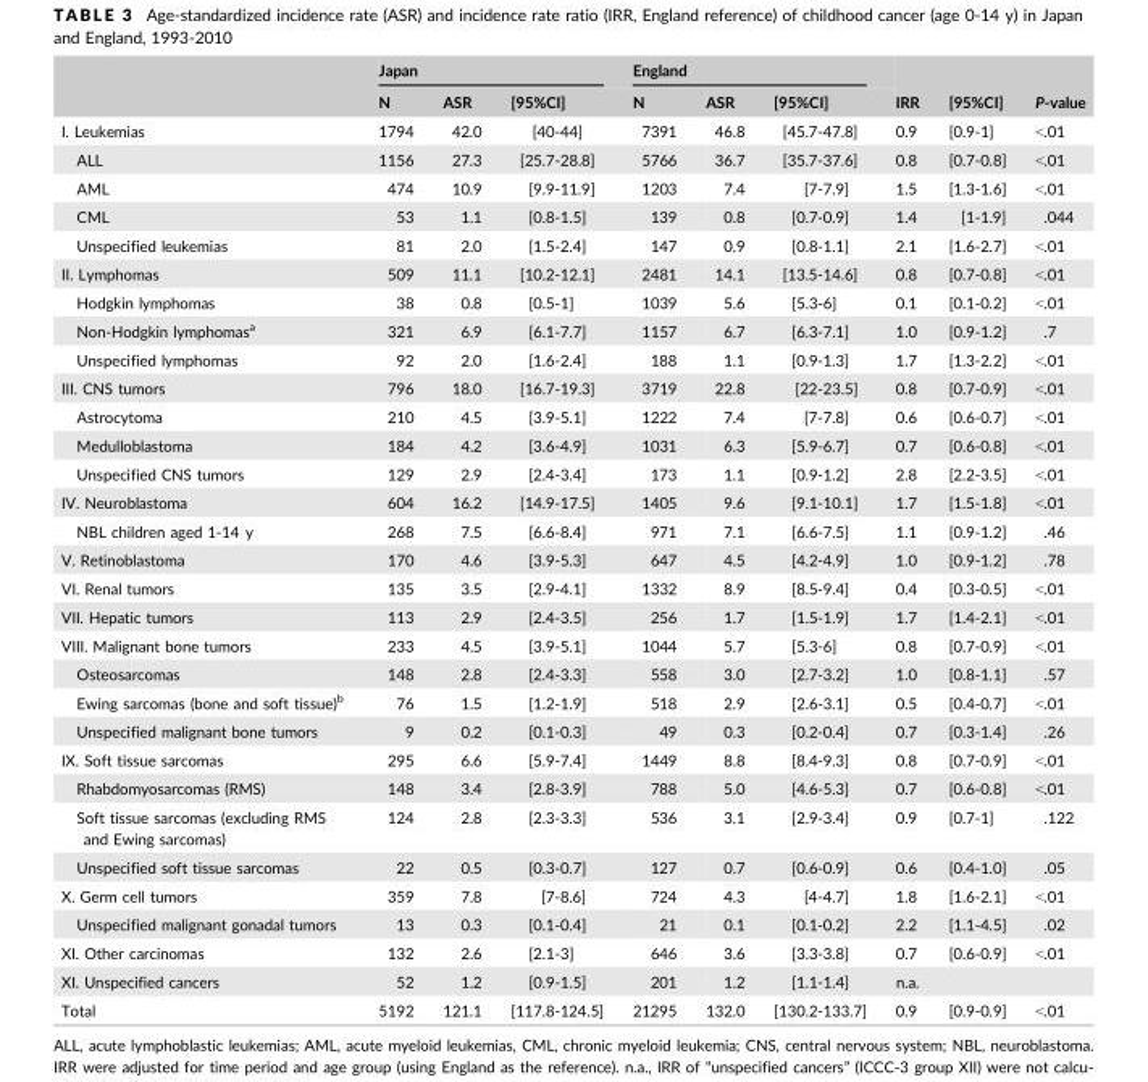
<table><thead><tr><td rowspan="2"></td><td colspan="3">Japan</td><td colspan="3">England</td><td rowspan="2">IRR</td><td rowspan="2">[95%CI]</td><td rowspan="2">P-value</td></tr><tr><td>N</td><td>ASR</td><td>[95%CI]</td><td>N</td><td>ASR</td><td>[95%CI]</td></tr></thead><tbody><tr><td>I. Leukemias</td><td>1794</td><td>42.0</td><td>[40-44]</td><td>7391</td><td>46.8</td><td>[45.7-47.8]</td><td>0.9</td><td>[0.9-1]</td><td>&lt;.01</td></tr><tr><td>ALL</td><td>1156</td><td>27.3</td><td>[25.7-28.8]</td><td>5766</td><td>36.7</td><td>[35.7-37.6]</td><td>0.8</td><td>[0.7-0.8]</td><td>&lt;.01</td></tr><tr><td>AML</td><td>474</td><td>10.9</td><td>[9.9-11.9]</td><td>1203</td><td>7.4</td><td>[7-7.9]</td><td>1.5</td><td>[1.3-1.6]</td><td>&lt;.01</td></tr><tr><td>CML</td><td>53</td><td>1.1</td><td>[0.8-1.5]</td><td>139</td><td>0.8</td><td>[0.7-0.9]</td><td>1.4</td><td>[1-1.9]</td><td>.044</td></tr><tr><td>Unspecified leukemias</td><td>81</td><td>2.0</td><td>[1.5-2.4]</td><td>147</td><td>0.9</td><td>[0.8-1.1]</td><td>2.1</td><td>[1.6-2.7]</td><td>&lt;.01</td></tr><tr><td>II. Lymphomas</td><td>509</td><td>11.1</td><td>[10.2-12.1]</td><td>2481</td><td>14.1</td><td>[13.5-14.6]</td><td>0.8</td><td>[0.7-0.8]</td><td>&lt;.01</td></tr><tr><td>Hodgkin lymphomas</td><td>38</td><td>0.8</td><td>[0.5-1]</td><td>1039</td><td>5.6</td><td>[5.3-6]</td><td>0.1</td><td>[0.1-0.2]</td><td>&lt;.01</td></tr><tr><td>Non-Hodgkin lymphomas<sup>a</sup></td><td>321</td><td>6.9</td><td>[6.1-7.7]</td><td>1157</td><td>6.7</td><td>[6.3-7.1]</td><td>1.0</td><td>[0.9-1.2]</td><td>.7</td></tr><tr><td>Unspecified lymphomas</td><td>92</td><td>2.0</td><td>[1.6-2.4]</td><td>188</td><td>1.1</td><td>[0.9-1.3]</td><td>1.7</td><td>[1.3-2.2]</td><td>&lt;.01</td></tr><tr><td>III. CNS tumors</td><td>796</td><td>18.0</td><td>[16.7-19.3]</td><td>3719</td><td>22.8</td><td>[22-23.5]</td><td>0.8</td><td>[0.7-0.9]</td><td>&lt;.01</td></tr><tr><td>Astrocytoma</td><td>210</td><td>4.5</td><td>[3.9-5.1]</td><td>1222</td><td>7.4</td><td>[7-7.8]</td><td>0.6</td><td>[0.6-0.7]</td><td>&lt;.01</td></tr><tr><td>Medulloblastoma</td><td>184</td><td>4.2</td><td>[3.6-4.9]</td><td>1031</td><td>6.3</td><td>[5.9-6.7]</td><td>0.7</td><td>[0.6-0.8]</td><td>&lt;.01</td></tr><tr><td>Unspecified CNS tumors</td><td>129</td><td>2.9</td><td>[2.4-3.4]</td><td>173</td><td>1.1</td><td>[0.9-1.2]</td><td>2.8</td><td>[2.2-3.5]</td><td>&lt;.01</td></tr><tr><td>IV. Neuroblastoma</td><td>604</td><td>16.2</td><td>[14.9-17.5]</td><td>1405</td><td>9.6</td><td>[9.1-10.1]</td><td>1.7</td><td>[1.5-1.8]</td><td>&lt;.01</td></tr><tr><td>NBL children aged 1-14 y</td><td>268</td><td>7.5</td><td>[6.6-8.4]</td><td>971</td><td>7.1</td><td>[6.6-7.5]</td><td>1.1</td><td>[0.9-1.2]</td><td>.46</td></tr><tr><td>V. Retinoblastoma</td><td>170</td><td>4.6</td><td>[3.9-5.3]</td><td>647</td><td>4.5</td><td>[4.2-4.9]</td><td>1.0</td><td>[0.9-1.2]</td><td>.78</td></tr><tr><td>VI. Renal tumors</td><td>135</td><td>3.5</td><td>[2.9-4.1]</td><td>1332</td><td>8.9</td><td>[8.5-9.4]</td><td>0.4</td><td>[0.3-0.5]</td><td>&lt;.01</td></tr><tr><td>VII. Hepatic tumors</td><td>113</td><td>2.9</td><td>[2.4-3.5]</td><td>256</td><td>1.7</td><td>[1.5-1.9]</td><td>1.7</td><td>[1.4-2.1]</td><td>&lt;.01</td></tr><tr><td>VIII. Malignant bone tumors</td><td>233</td><td>4.5</td><td>[3.9-5.1]</td><td>1044</td><td>5.7</td><td>[5.3-6]</td><td>0.8</td><td>[0.7-0.9]</td><td>&lt;.01</td></tr><tr><td>Osteosarcomas</td><td>148</td><td>2.8</td><td>[2.4-3.3]</td><td>558</td><td>3.0</td><td>[2.7-3.2]</td><td>1.0</td><td>[0.8-1.1]</td><td>.57</td></tr><tr><td>Ewing sarcomas (bone and soft tissue)<sup>b</sup></td><td>76</td><td>1.5</td><td>[1.2-1.9]</td><td>518</td><td>2.9</td><td>[2.6-3.1]</td><td>0.5</td><td>[0.4-0.7]</td><td>&lt;.01</td></tr><tr><td>Unspecified malignant bone tumors</td><td>9</td><td>0.2</td><td>[0.1-0.3]</td><td>49</td><td>0.3</td><td>[0.2-0.4]</td><td>0.7</td><td>[0.3-1.4]</td><td>.26</td></tr><tr><td>IX. Soft tissue sarcomas</td><td>295</td><td>6.6</td><td>[5.9-7.4]</td><td>1449</td><td>8.8</td><td>[8.4-9.3]</td><td>0.8</td><td>[0.7-0.9]</td><td>&lt;.01</td></tr><tr><td>Rhabdomyosarcomas (RMS)</td><td>148</td><td>3.4</td><td>[2.8-3.9]</td><td>788</td><td>5.0</td><td>[4.6-5.3]</td><td>0.7</td><td>[0.6-0.8]</td><td>&lt;.01</td></tr><tr><td>Soft tissue sarcomas (excluding RMS and Ewing sarcomas)</td><td>124</td><td>2.8</td><td>[2.3-3.3]</td><td>536</td><td>3.1</td><td>[2.9-3.4]</td><td>0.9</td><td>[0.7-1]</td><td>.122</td></tr><tr><td>Unspecified soft tissue sarcomas</td><td>22</td><td>0.5</td><td>[0.3-0.7]</td><td>127</td><td>0.7</td><td>[0.6-0.9]</td><td>0.6</td><td>[0.4-1.0]</td><td>.05</td></tr><tr><td>X. Germ cell tumors</td><td>359</td><td>7.8</td><td>[7-8.6]</td><td>724</td><td>4.3</td><td>[4-4.7]</td><td>1.8</td><td>[1.6-2.1]</td><td>&lt;.01</td></tr><tr><td>Unspecified malignant gonadal tumors</td><td>13</td><td>0.3</td><td>[0.1-0.4]</td><td>21</td><td>0.1</td><td>[0.1-0.2]</td><td>2.2</td><td>[1.1-4.5]</td><td>.02</td></tr><tr><td>XI. Other carcinomas</td><td>132</td><td>2.6</td><td>[2.1-3]</td><td>646</td><td>3.6</td><td>[3.3-3.8]</td><td>0.7</td><td>[0.6-0.9]</td><td>&lt;.01</td></tr><tr><td>XI. Unspecified cancers</td><td>52</td><td>1.2</td><td>[0.9-1.5]</td><td>201</td><td>1.2</td><td>[1.1-1.4]</td><td>n.a.</td><td></td><td></td></tr><tr><td>Total</td><td>5192</td><td>121.1</td><td>[117.8-124.5]</td><td>21295</td><td>132.0</td><td>[130.2-133.7]</td><td>0.9</td><td>[0.9-0.9]</td><td>&lt;.01</td></tr></tbody></table>